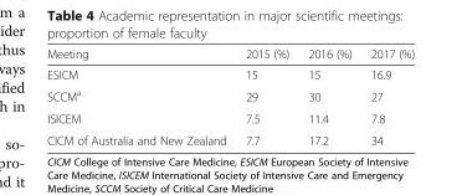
<table><thead><tr><td>Meeting</td><td>2015 (%)</td><td>2016 (%)</td><td>2017 (%)</td></tr></thead><tbody><tr><td>ESICM</td><td>15</td><td>15</td><td>16.9</td></tr><tr><td>SCCM<sup>a</sup></td><td>29</td><td>30</td><td>27</td></tr><tr><td>ISICEM</td><td>7.5</td><td>11.4</td><td>7.8</td></tr><tr><td>CICM of Australia and New Zealand</td><td>7.7</td><td>17.2</td><td>34</td></tr></tbody></table>